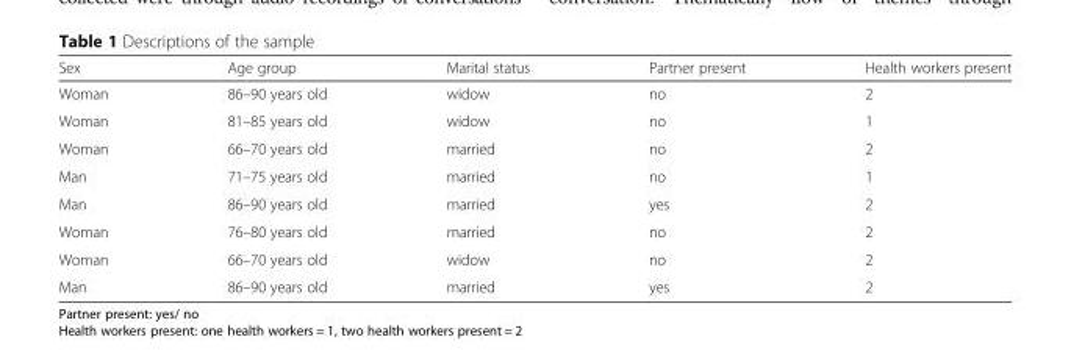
<table><thead><tr><td>Sex</td><td>Age group</td><td>Marital status</td><td>Partner present</td><td>Health workers present</td></tr></thead><tbody><tr><td>Woman</td><td>86–90 years old</td><td>widow</td><td>no</td><td>2</td></tr><tr><td>Woman</td><td>81–85 years old</td><td>widow</td><td>no</td><td>1</td></tr><tr><td>Woman</td><td>66–70 years old</td><td>married</td><td>no</td><td>2</td></tr><tr><td>Man</td><td>71–75 years old</td><td>married</td><td>no</td><td>1</td></tr><tr><td>Man</td><td>86–90 years old</td><td>married</td><td>yes</td><td>2</td></tr><tr><td>Woman</td><td>76–80 years old</td><td>married</td><td>no</td><td>2</td></tr><tr><td>Woman</td><td>66–70 years old</td><td>widow</td><td>no</td><td>2</td></tr><tr><td>Man</td><td>86–90 years old</td><td>married</td><td>yes</td><td>2</td></tr></tbody></table>